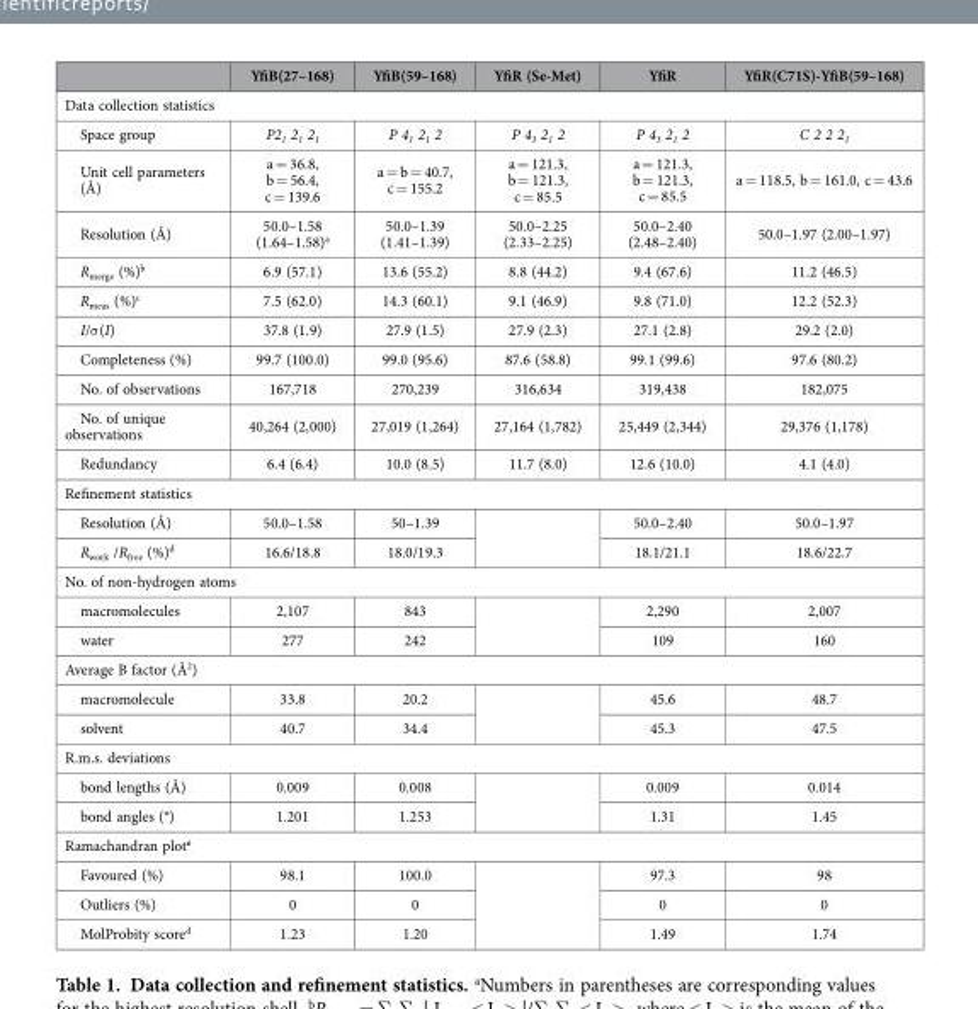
<table><thead><tr><td></td><td>YfiB(27–168)</td><td>YfiB(59–168)</td><td>YfiR (Se-Met)</td><td>YfiR</td><td>YfiR(C71S)-YfiB(59–168)</td></tr></thead><tbody><tr><td colspan="6">Data collection statistics</td></tr><tr><td>Space group</td><td>P2<sub>1</sub> 2<sub>1</sub> 2<sub>1</sub></td><td>P 4<sub>1</sub> 2<sub>1</sub> 2</td><td>P 4<sub>3</sub> 2<sub>1</sub> 2</td><td>P 4<sub>3</sub> 2<sub>1</sub> 2</td><td>C 2 2 2<sub>1</sub></td></tr><tr><td>Unit cell parameters (Å)</td><td>a = 36.8, b = 56.4, c = 139.6</td><td>a = b = 40.7, c = 155.2</td><td>a = 121.3, b = 121.3, c = 85.5</td><td>a = 121.3, b = 121.3, c = 85.5</td><td>a = 118.5, b = 161.0, c = 43.6</td></tr><tr><td>Resolution (Å)</td><td>50.0–1.58 (1.64–1.58)<sup>a</sup></td><td>50.0–1.39 (1.41–1.39)</td><td>50.0–2.25 (2.33–2.25)</td><td>50.0–2.40 (2.48–2.40)</td><td>50.0–1.97 (2.00–1.97)</td></tr><tr><td>R<sub>merge</sub> (%)<sup>b</sup></td><td>6.9 (57.1)</td><td>13.6 (55.2)</td><td>8.8 (44.2)</td><td>9.4 (67.6)</td><td>11.2 (46.5)</td></tr><tr><td>R<sub>meas</sub> (%)<sup>c</sup></td><td>7.5 (62.0)</td><td>14.3 (60.1)</td><td>9.1 (46.9)</td><td>9.8 (71.0)</td><td>12.2 (52.3)</td></tr><tr><td>I/σ (I)</td><td>37.8 (1.9)</td><td>27.9 (1.5)</td><td>27.9 (2.3)</td><td>27.1 (2.8)</td><td>29.2 (2.0)</td></tr><tr><td>Completeness (%)</td><td>99.7 (100.0)</td><td>99.0 (95.6)</td><td>87.6 (58.8)</td><td>99.1 (99.6)</td><td>97.6 (80.2)</td></tr><tr><td>No. of observations</td><td>167,718</td><td>270,239</td><td>316,634</td><td>319,438</td><td>182,075</td></tr><tr><td>No. of unique observations</td><td>40,264 (2,000)</td><td>27,019 (1,264)</td><td>27,164 (1,782)</td><td>25,449 (2,344)</td><td>29,376 (1,178)</td></tr><tr><td>Redundancy</td><td>6.4 (6.4)</td><td>10.0 (8.5)</td><td>11.7 (8.0)</td><td>12.6 (10.0)</td><td>4.1 (4.0)</td></tr><tr><td colspan="6">Refinement statistics</td></tr><tr><td>Resolution (Å)</td><td>50.0–1.58</td><td>50–1.39</td><td rowspan="2"></td><td>50.0–2.40</td><td>50.0–1.97</td></tr><tr><td>R<sub>work</sub> /R<sub>free</sub> (%)<sup>d</sup></td><td>16.6/18.8</td><td>18.0/19.3</td><td>18.1/21.1</td><td>18.6/22.7</td></tr><tr><td colspan="6">No. of non-hydrogen atoms</td></tr><tr><td>macromolecules</td><td>2,107</td><td>843</td><td rowspan="2"></td><td>2,290</td><td>2,007</td></tr><tr><td>water</td><td>277</td><td>242</td><td>109</td><td>160</td></tr><tr><td colspan="6">Average B factor (Å<sup>2</sup>)</td></tr><tr><td>macromolecule</td><td>33.8</td><td>20.2</td><td rowspan="2"></td><td>45.6</td><td>48.7</td></tr><tr><td>solvent</td><td>40.7</td><td>34.4</td><td>45.3</td><td>47.5</td></tr><tr><td colspan="6">R.m.s. deviations</td></tr><tr><td>bond lengths (Å)</td><td>0.009</td><td>0.008</td><td rowspan="2"></td><td>0.009</td><td>0.014</td></tr><tr><td>bond angles (°)</td><td>1.201</td><td>1.253</td><td>1.31</td><td>1.45</td></tr><tr><td colspan="6">Ramachandran plot<sup>e</sup></td></tr><tr><td>Favoured (%)</td><td>98.1</td><td>100.0</td><td rowspan="3"></td><td>97.3</td><td>98</td></tr><tr><td>Outliers (%)</td><td>0</td><td>0</td><td>0</td><td>0</td></tr><tr><td>MolProbity score<sup>d</sup></td><td>1.23</td><td>1.20</td><td>1.49</td><td>1.74</td></tr></tbody></table>